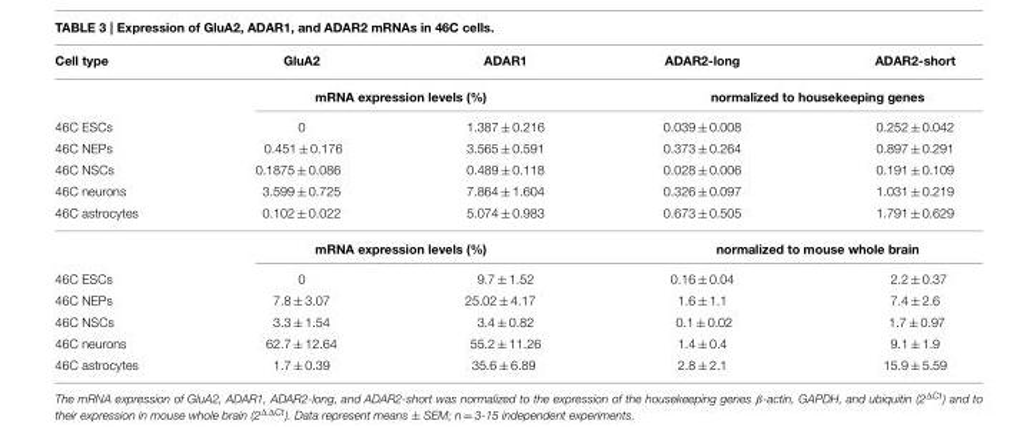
<table><thead><tr><td rowspan="2">Cell type</td><td>GluA2</td><td>ADAR1</td><td>ADAR2-long</td><td>ADAR2-short</td></tr><tr><td colspan="2">mRNA expression levels (%)</td><td colspan="2">normalized to housekeeping genes</td></tr></thead><tbody><tr><td>46C ESCs</td><td>0</td><td>1.387 ± 0.216</td><td>0.039 ± 0.008</td><td>0.252 ± 0.042</td></tr><tr><td>46C NEPs</td><td>0.451 ± 0.176</td><td>3.565 ± 0.591</td><td>0.373 ± 0.264</td><td>0.897 ± 0.291</td></tr><tr><td>46C NSCs</td><td>0.1875 ± 0.086</td><td>0.489 ± 0.118</td><td>0.028 ± 0.006</td><td>0.191 ± 0.109</td></tr><tr><td>46C neurons</td><td>3.599 ± 0.725</td><td>7.864 ± 1.604</td><td>0.326 ± 0.097</td><td>1.031 ± 0.219</td></tr><tr><td rowspan="2">46C astrocytes</td><td>0.102 ± 0.022</td><td>5.074 ± 0.983</td><td>0.673 ± 0.505</td><td>1.791 ± 0.629</td></tr><tr><td colspan="2">mRNA expression levels (%)</td><td colspan="2">normalized to mouse whole brain</td></tr><tr><td>46C ESCs</td><td>0</td><td>9.7 ± 1.52</td><td>0.16 ± 0.04</td><td>2.2 ± 0.37</td></tr><tr><td>46C NEPs</td><td>7.8 ± 3.07</td><td>25.02 ± 4.17</td><td>1.6 ± 1.1</td><td>7.4 ± 2.6</td></tr><tr><td>46C NSCs</td><td>3.3 ± 1.54</td><td>3.4 ± 0.82</td><td>0.1 ± 0.02</td><td>1.7 ± 0.97</td></tr><tr><td>46C neurons</td><td>62.7 ± 12.64</td><td>55.2 ± 11.26</td><td>1.4 ± 0.4</td><td>9.1 ± 1.9</td></tr><tr><td>46C astrocytes</td><td>1.7 ± 0.39</td><td>35.6 ± 6.89</td><td>2.8 ± 2.1</td><td>15.9 ± 5.59</td></tr></tbody></table>